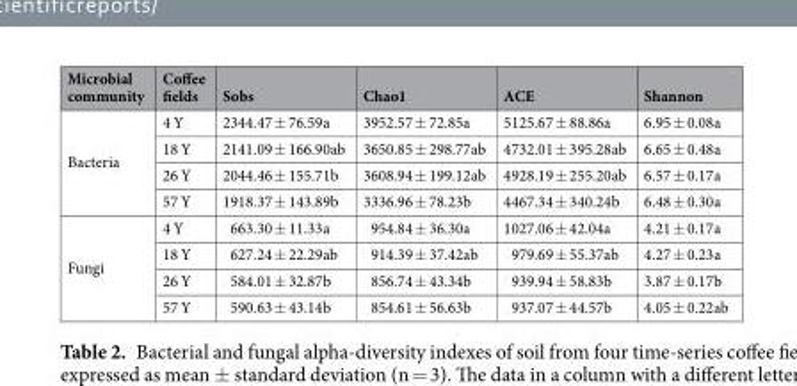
<table><thead><tr><td>Microbial community</td><td>Coffee fields</td><td>Sobs</td><td>Chao1</td><td>ACE</td><td>Shannon</td></tr></thead><tbody><tr><td rowspan="4">Bacteria</td><td>4 Y</td><td>2344.47 ± 76.59a</td><td>3952.57 ± 72.85a</td><td>5125.67 ± 88.86a</td><td>6.95 ± 0.08a</td></tr><tr><td>18 Y</td><td>2141.09 ± 166.90ab</td><td>3650.85 ± 298.77ab</td><td>4732.01 ± 395.28ab</td><td>6.65 ± 0.48a</td></tr><tr><td>26 Y</td><td>2044.46 ± 155.71b</td><td>3608.94 ± 199.12ab</td><td>4928.19 ± 255.20ab</td><td>6.57 ± 0.17a</td></tr><tr><td>57 Y</td><td>1918.37 ± 143.89b</td><td>3336.96 ± 78.23b</td><td>4467.34 ± 340.24b</td><td>6.48 ± 0.30a</td></tr><tr><td rowspan="4">Fungi</td><td>4 Y</td><td>663.30 ± 11.33a</td><td>954.84 ± 36.30a</td><td>1027.06 ± 42.04a</td><td>4.21 ± 0.17a</td></tr><tr><td>18 Y</td><td>627.24 ± 22.29ab</td><td>914.39 ± 37.42ab</td><td>979.69 ± 55.37ab</td><td>4.27 ± 0.23a</td></tr><tr><td>26 Y</td><td>584.01 ± 32.87b</td><td>856.74 ± 43.34b</td><td>939.94 ± 58.83b</td><td>3.87 ± 0.17b</td></tr><tr><td>57 Y</td><td>590.63 ± 43.14b</td><td>854.61 ± 56.63b</td><td>937.07 ± 44.57b</td><td>4.05 ± 0.22ab</td></tr></tbody></table>